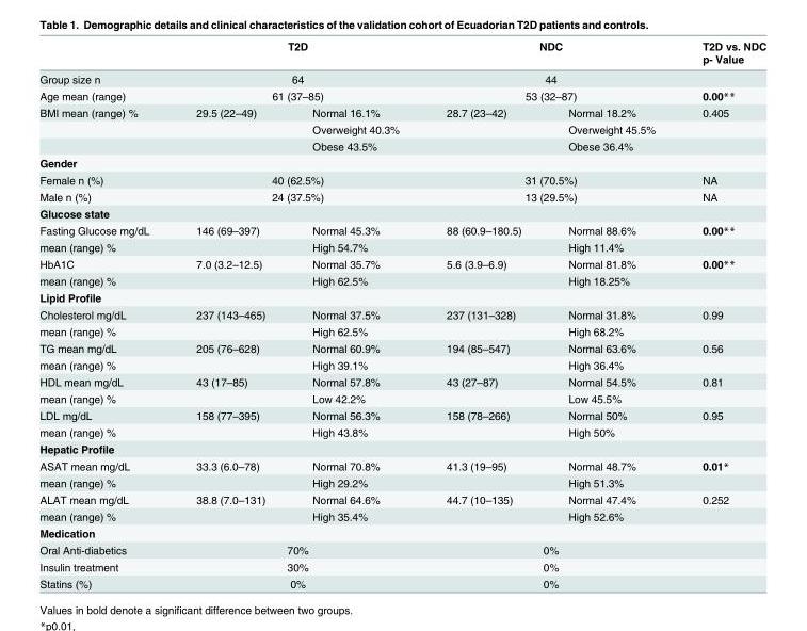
<table><thead><tr><td rowspan="2"></td><td colspan="2">T2D</td><td colspan="2">NDC</td><td rowspan="2">T2D vs. NDC p- Value</td></tr><tr><td></td><td></td><td></td><td></td></tr></thead><tbody><tr><td>Group size n</td><td colspan="2">64</td><td colspan="2">44</td><td></td></tr><tr><td>Age mean (range)</td><td colspan="2">61 (37–85)</td><td colspan="2">53 (32–87)</td><td>0.00**</td></tr><tr><td rowspan="3">BMI mean (range) %</td><td>29.5 (22–49)</td><td>Normal 16.1%</td><td>28.7 (23–42)</td><td>Normal 18.2%</td><td>0.405</td></tr><tr><td></td><td>Overweight 40.3%</td><td></td><td>Overweight 45.5%</td><td></td></tr><tr><td></td><td>Obese 43.5%</td><td></td><td>Obese 36.4%</td><td></td></tr><tr><td colspan="6">Gender</td></tr><tr><td>Female n (%)</td><td colspan="2">40 (62.5%)</td><td colspan="2">31 (70.5%)</td><td>NA</td></tr><tr><td>Male n (%)</td><td colspan="2">24 (37.5%)</td><td colspan="2">13 (29.5%)</td><td>NA</td></tr><tr><td colspan="6">Glucose state</td></tr><tr><td>Fasting Glucose mg/dL</td><td>146 (69–397)</td><td>Normal 45.3%</td><td>88 (60.9–180.5)</td><td>Normal 88.6%</td><td>0.00**</td></tr><tr><td>mean (range) %</td><td></td><td>High 54.7%</td><td></td><td>High 11.4%</td><td></td></tr><tr><td>HbA1C</td><td>7.0 (3.2–12.5)</td><td>Normal 35.7%</td><td>5.6 (3.9–6.9)</td><td>Normal 81.8%</td><td>0.00**</td></tr><tr><td>mean (range) %</td><td></td><td>High 62.5%</td><td></td><td>High 18.25%</td><td></td></tr><tr><td colspan="6">Lipid Profile</td></tr><tr><td>Cholesterol mg/dL</td><td>237 (143–465)</td><td>Normal 37.5%</td><td>237 (131–328)</td><td>Normal 31.8%</td><td>0.99</td></tr><tr><td>mean (range) %</td><td></td><td>High 62.5%</td><td></td><td>High 68.2%</td><td></td></tr><tr><td>TG mean mg/dL</td><td>205 (76–628)</td><td>Normal 60.9%</td><td>194 (85–547)</td><td>Normal 63.6%</td><td>0.56</td></tr><tr><td>mean (range) %</td><td></td><td>High 39.1%</td><td></td><td>High 36.4%</td><td></td></tr><tr><td>HDL mean mg/dL</td><td>43 (17–85)</td><td>Normal 57.8%</td><td>43 (27–87)</td><td>Normal 54.5%</td><td>0.81</td></tr><tr><td>mean (range) %</td><td></td><td>Low 42.2%</td><td></td><td>Low 45.5%</td><td></td></tr><tr><td>LDL mg/dL</td><td>158 (77–395)</td><td>Normal 56.3%</td><td>158 (78–266)</td><td>Normal 50%</td><td>0.95</td></tr><tr><td>mean (range) %</td><td></td><td>High 43.8%</td><td></td><td>High 50%</td><td></td></tr><tr><td colspan="6">Hepatic Profile</td></tr><tr><td>ASAT mean mg/dL</td><td>33.3 (6.0–78)</td><td>Normal 70.8%</td><td>41.3 (19–95)</td><td>Normal 48.7%</td><td>0.01*</td></tr><tr><td>mean (range) %</td><td></td><td>High 29.2%</td><td></td><td>High 51.3%</td><td></td></tr><tr><td>ALAT mean mg/dL</td><td>38.8 (7.0–131)</td><td>Normal 64.6%</td><td>44.7 (10–135)</td><td>Normal 47.4%</td><td>0.252</td></tr><tr><td>mean (range) %</td><td></td><td>High 35.4%</td><td></td><td>High 52.6%</td><td></td></tr><tr><td colspan="6">Medication</td></tr><tr><td>Oral Anti-diabetics</td><td colspan="2">70%</td><td colspan="2">0%</td><td></td></tr><tr><td>Insulin treatment</td><td colspan="2">30%</td><td colspan="2">0%</td><td></td></tr><tr><td>Statins (%)</td><td colspan="2">0%</td><td colspan="2">0%</td><td></td></tr></tbody></table>